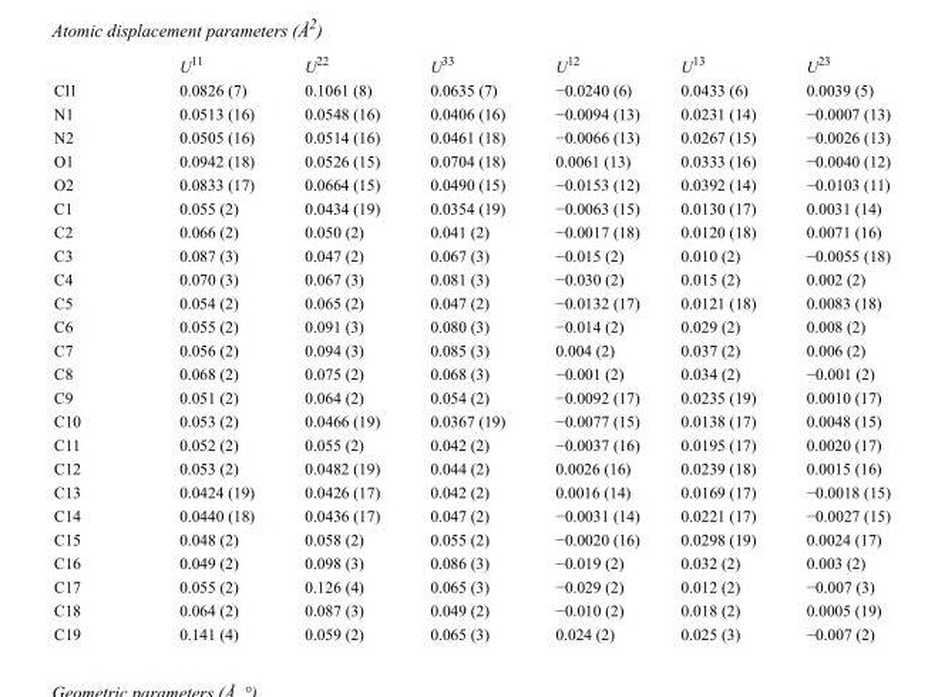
<table><thead><tr><td></td><td>U<sup>11</sup></td><td>U<sup>22</sup></td><td>U<sup>33</sup></td><td>U<sup>12</sup></td><td>U<sup>13</sup></td><td>U<sup>23</sup></td></tr></thead><tbody><tr><td>Cl1</td><td>0.0826 (7)</td><td>0.1061 (8)</td><td>0.0635 (7)</td><td>−0.0240 (6)</td><td>0.0433 (6)</td><td>0.0039 (5)</td></tr><tr><td>N1</td><td>0.0513 (16)</td><td>0.0548 (16)</td><td>0.0406 (16)</td><td>−0.0094 (13)</td><td>0.0231 (14)</td><td>−0.0007 (13)</td></tr><tr><td>N2</td><td>0.0505 (16)</td><td>0.0514 (16)</td><td>0.0461 (18)</td><td>−0.0066 (13)</td><td>0.0267 (15)</td><td>−0.0026 (13)</td></tr><tr><td>O1</td><td>0.0942 (18)</td><td>0.0526 (15)</td><td>0.0704 (18)</td><td>0.0061 (13)</td><td>0.0333 (16)</td><td>−0.0040 (12)</td></tr><tr><td>O2</td><td>0.0833 (17)</td><td>0.0664 (15)</td><td>0.0490 (15)</td><td>−0.0153 (12)</td><td>0.0392 (14)</td><td>−0.0103 (11)</td></tr><tr><td>C1</td><td>0.055 (2)</td><td>0.0434 (19)</td><td>0.0354 (19)</td><td>−0.0063 (15)</td><td>0.0130 (17)</td><td>0.0031 (14)</td></tr><tr><td>C2</td><td>0.066 (2)</td><td>0.050 (2)</td><td>0.041 (2)</td><td>−0.0017 (18)</td><td>0.0120 (18)</td><td>0.0071 (16)</td></tr><tr><td>C3</td><td>0.087 (3)</td><td>0.047 (2)</td><td>0.067 (3)</td><td>−0.015 (2)</td><td>0.010 (2)</td><td>−0.0055 (18)</td></tr><tr><td>C4</td><td>0.070 (3)</td><td>0.067 (3)</td><td>0.081 (3)</td><td>−0.030 (2)</td><td>0.015 (2)</td><td>0.002 (2)</td></tr><tr><td>C5</td><td>0.054 (2)</td><td>0.065 (2)</td><td>0.047 (2)</td><td>−0.0132 (17)</td><td>0.0121 (18)</td><td>0.0083 (18)</td></tr><tr><td>C6</td><td>0.055 (2)</td><td>0.091 (3)</td><td>0.080 (3)</td><td>−0.014 (2)</td><td>0.029 (2)</td><td>0.008 (2)</td></tr><tr><td>C7</td><td>0.056 (2)</td><td>0.094 (3)</td><td>0.085 (3)</td><td>0.004 (2)</td><td>0.037 (2)</td><td>0.006 (2)</td></tr><tr><td>C8</td><td>0.068 (2)</td><td>0.075 (2)</td><td>0.068 (3)</td><td>−0.001 (2)</td><td>0.034 (2)</td><td>−0.001 (2)</td></tr><tr><td>C9</td><td>0.051 (2)</td><td>0.064 (2)</td><td>0.054 (2)</td><td>−0.0092 (17)</td><td>0.0235 (19)</td><td>0.0010 (17)</td></tr><tr><td>C10</td><td>0.053 (2)</td><td>0.0466 (19)</td><td>0.0367 (19)</td><td>−0.0077 (15)</td><td>0.0138 (17)</td><td>0.0048 (15)</td></tr><tr><td>C11</td><td>0.052 (2)</td><td>0.055 (2)</td><td>0.042 (2)</td><td>−0.0037 (16)</td><td>0.0195 (17)</td><td>0.0020 (17)</td></tr><tr><td>C12</td><td>0.053 (2)</td><td>0.0482 (19)</td><td>0.044 (2)</td><td>0.0026 (16)</td><td>0.0239 (18)</td><td>0.0015 (16)</td></tr><tr><td>C13</td><td>0.0424 (19)</td><td>0.0426 (17)</td><td>0.042 (2)</td><td>0.0016 (14)</td><td>0.0169 (17)</td><td>−0.0018 (15)</td></tr><tr><td>C14</td><td>0.0440 (18)</td><td>0.0436 (17)</td><td>0.047 (2)</td><td>−0.0031 (14)</td><td>0.0221 (17)</td><td>−0.0027 (15)</td></tr><tr><td>C15</td><td>0.048 (2)</td><td>0.058 (2)</td><td>0.055 (2)</td><td>−0.0020 (16)</td><td>0.0298 (19)</td><td>0.0024 (17)</td></tr><tr><td>C16</td><td>0.049 (2)</td><td>0.098 (3)</td><td>0.086 (3)</td><td>−0.019 (2)</td><td>0.032 (2)</td><td>0.003 (2)</td></tr><tr><td>C17</td><td>0.055 (2)</td><td>0.126 (4)</td><td>0.065 (3)</td><td>−0.029 (2)</td><td>0.012 (2)</td><td>−0.007 (3)</td></tr><tr><td>C18</td><td>0.064 (2)</td><td>0.087 (3)</td><td>0.049 (2)</td><td>−0.010 (2)</td><td>0.018 (2)</td><td>0.0005 (19)</td></tr><tr><td>C19</td><td>0.141 (4)</td><td>0.059 (2)</td><td>0.065 (3)</td><td>0.024 (2)</td><td>0.025 (3)</td><td>−0.007 (2)</td></tr></tbody></table>